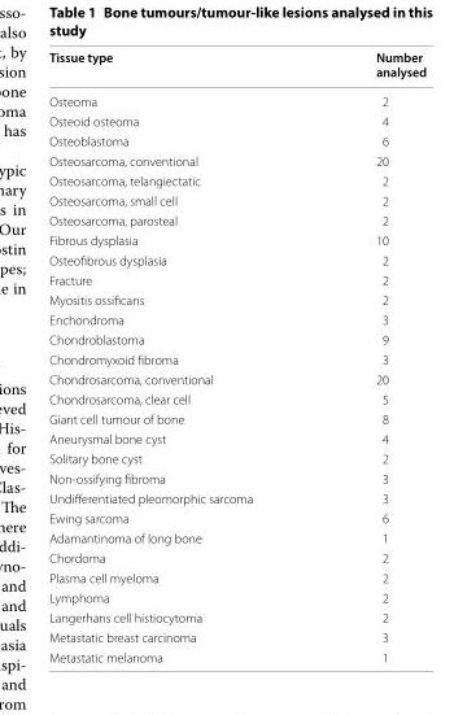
<table><thead><tr><td>Tissue type</td><td>Number analysed</td></tr></thead><tbody><tr><td>Osteoma</td><td>2</td></tr><tr><td>Osteoid osteoma</td><td>4</td></tr><tr><td>Osteoblastoma</td><td>6</td></tr><tr><td>Osteosarcoma, conventional</td><td>20</td></tr><tr><td>Osteosarcoma, telangiectatic</td><td>2</td></tr><tr><td>Osteosarcoma, small cell</td><td>2</td></tr><tr><td>Osteosarcoma, parosteal</td><td>2</td></tr><tr><td>Fibrous dysplasia</td><td>10</td></tr><tr><td>Osteofibrous dysplasia</td><td>2</td></tr><tr><td>Fracture</td><td>2</td></tr><tr><td>Myositis ossificans</td><td>2</td></tr><tr><td>Enchondroma</td><td>3</td></tr><tr><td>Chondroblastoma</td><td>9</td></tr><tr><td>Chondromyxoid fibroma</td><td>3</td></tr><tr><td>Chondrosarcoma, conventional</td><td>20</td></tr><tr><td>Chondrosarcoma, clear cell</td><td>5</td></tr><tr><td>Giant cell tumour of bone</td><td>8</td></tr><tr><td>Aneurysmal bone cyst</td><td>4</td></tr><tr><td>Solitary bone cyst</td><td>2</td></tr><tr><td>Non-ossifying fibroma</td><td>3</td></tr><tr><td>Undifferentiated pleomorphic sarcoma</td><td>3</td></tr><tr><td>Ewing sarcoma</td><td>6</td></tr><tr><td>Adamantinoma of long bone</td><td>1</td></tr><tr><td>Chordoma</td><td>2</td></tr><tr><td>Plasma cell myeloma</td><td>2</td></tr><tr><td>Lymphoma</td><td>2</td></tr><tr><td>Langerhans cell histiocytoma</td><td>2</td></tr><tr><td>Metastatic breast carcinoma</td><td>3</td></tr><tr><td>Metastatic melanoma</td><td>1</td></tr></tbody></table>